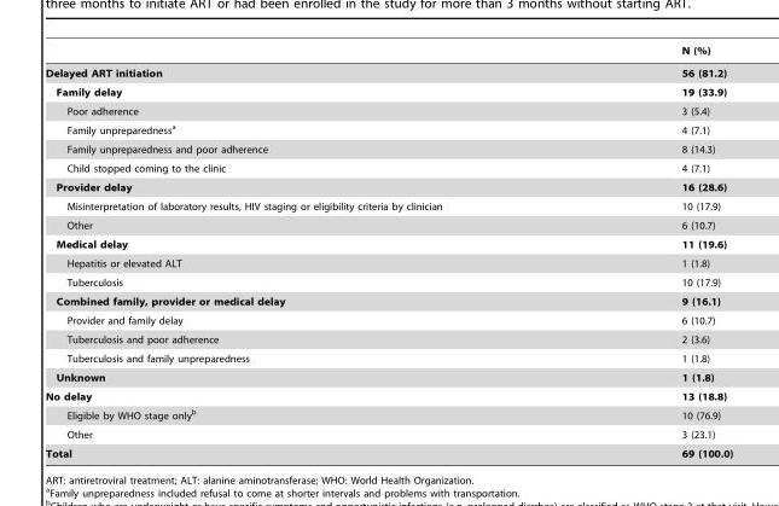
<table><thead><tr><td></td><td>N (%)</td></tr></thead><tbody><tr><td>Delayed ART initiation</td><td>56 (81.2)</td></tr><tr><td>Family delay</td><td>19 (33.9)</td></tr><tr><td>Poor adherence</td><td>3 (5.4)</td></tr><tr><td>Family unpreparedness<sup>a</sup></td><td>4 (7.1)</td></tr><tr><td>Family unpreparedness and poor adherence</td><td>8 (14.3)</td></tr><tr><td>Child stopped coming to the clinic</td><td>4 (7.1)</td></tr><tr><td>Provider delay</td><td>16 (28.6)</td></tr><tr><td>Misinterpretation of laboratory results, HIV staging or eligibility criteria by clinician</td><td>10 (17.9)</td></tr><tr><td>Other</td><td>6 (10.7)</td></tr><tr><td>Medical delay</td><td>11 (19.6)</td></tr><tr><td>Hepatitis or elevated ALT</td><td>1 (1.8)</td></tr><tr><td>Tuberculosis</td><td>10 (17.9)</td></tr><tr><td>Combined family, provider or medical delay</td><td>9 (16.1)</td></tr><tr><td>Provider and family delay</td><td>6 (10.7)</td></tr><tr><td>Tuberculosis and poor adherence</td><td>2 (3.6)</td></tr><tr><td>Tuberculosis and family unpreparedness</td><td>1 (1.8)</td></tr><tr><td>Unknown</td><td>1 (1.8)</td></tr><tr><td>No delay</td><td>13 (18.8)</td></tr><tr><td>Eligible by WHO stage only<sup>b</sup></td><td>10 (76.9)</td></tr><tr><td>Other</td><td>3 (23.1)</td></tr><tr><td>Total</td><td>69 (100.0)</td></tr></tbody></table>